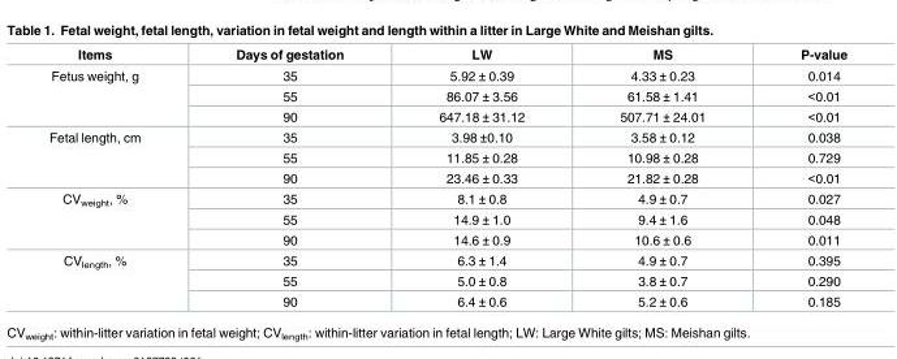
<table><thead><tr><td>Items</td><td>Days of gestation</td><td>LW</td><td>MS</td><td>P-value</td></tr></thead><tbody><tr><td rowspan="3">Fetus weight, g</td><td>35</td><td>5.92 ± 0.39</td><td>4.33 ± 0.23</td><td>0.014</td></tr><tr><td>55</td><td>86.07 ± 3.56</td><td>61.58 ± 1.41</td><td>&lt;0.01</td></tr><tr><td>90</td><td>647.18 ± 31.12</td><td>507.71 ± 24.01</td><td>&lt;0.01</td></tr><tr><td rowspan="3">Fetal length, cm</td><td>35</td><td>3.98 ±0.10</td><td>3.58 ± 0.12</td><td>0.038</td></tr><tr><td>55</td><td>11.85 ± 0.28</td><td>10.98 ± 0.28</td><td>0.729</td></tr><tr><td>90</td><td>23.46 ± 0.33</td><td>21.82 ± 0.28</td><td>&lt;0.01</td></tr><tr><td rowspan="3">CV<sub>weight</sub>, %</td><td>35</td><td>8.1 ± 0.8</td><td>4.9 ± 0.7</td><td>0.027</td></tr><tr><td>55</td><td>14.9 ± 1.0</td><td>9.4 ± 1.6</td><td>0.048</td></tr><tr><td>90</td><td>14.6 ± 0.9</td><td>10.6 ± 0.6</td><td>0.011</td></tr><tr><td rowspan="3">CV<sub>length</sub>, %</td><td>35</td><td>6.3 ± 1.4</td><td>4.9 ± 0.7</td><td>0.395</td></tr><tr><td>55</td><td>5.0 ± 0.8</td><td>3.8 ± 0.7</td><td>0.290</td></tr><tr><td>90</td><td>6.4 ± 0.6</td><td>5.2 ± 0.6</td><td>0.185</td></tr></tbody></table>